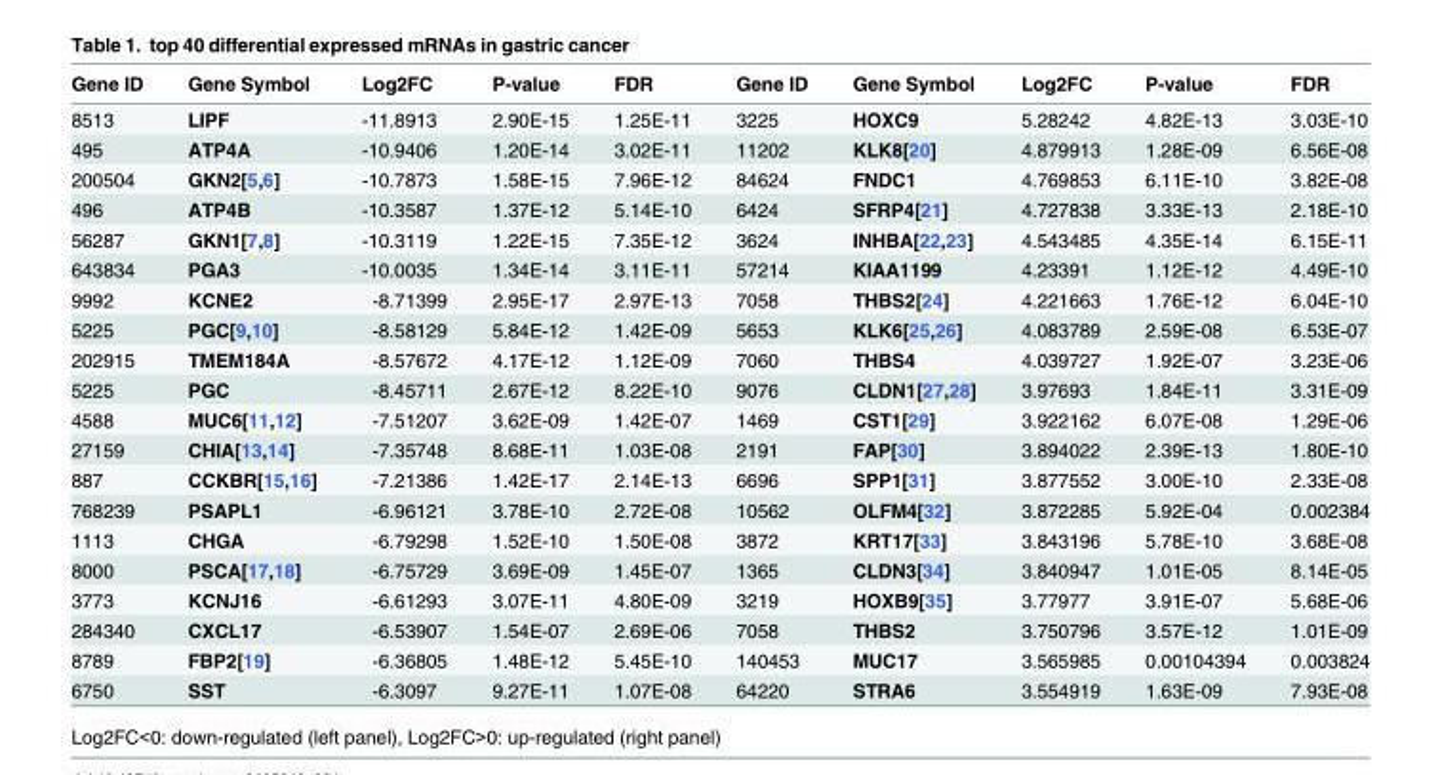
<table><thead><tr><td>Gene ID</td><td>Gene Symbol</td><td>Log2FC</td><td>P-value</td><td>FDR</td><td>Gene ID</td><td>Gene Symbol</td><td>Log2FC</td><td>P-value</td><td>FDR</td></tr></thead><tbody><tr><td>8513</td><td>LIPF</td><td>-11.8913</td><td>2.90E-15</td><td>1.25E-11</td><td>3225</td><td>HOXC9</td><td>5.28242</td><td>4.82E-13</td><td>3.03E-10</td></tr><tr><td>495</td><td>ATP4A</td><td>-10.9406</td><td>1.20E-14</td><td>3.02E-11</td><td>11202</td><td>KLK8[20]</td><td>4.879913</td><td>1.28E-09</td><td>6.56E-08</td></tr><tr><td>200504</td><td>GKN2[5,6]</td><td>-10.7873</td><td>1.58E-15</td><td>7.96E-12</td><td>84624</td><td>FNDC1</td><td>4.769853</td><td>6.11E-10</td><td>3.82E-08</td></tr><tr><td>496</td><td>ATP4B</td><td>-10.3587</td><td>1.37E-12</td><td>5.14E-10</td><td>6424</td><td>SFRP4[21]</td><td>4.727838</td><td>3.33E-13</td><td>2.18E-10</td></tr><tr><td>56287</td><td>GKN1[7,8]</td><td>-10.3119</td><td>1.22E-15</td><td>7.35E-12</td><td>3624</td><td>INHBA[22,23]</td><td>4.543485</td><td>4.35E-14</td><td>6.15E-11</td></tr><tr><td>643834</td><td>PGA3</td><td>-10.0035</td><td>1.34E-14</td><td>3.11E-11</td><td>57214</td><td>KIAA1199</td><td>4.23391</td><td>1.12E-12</td><td>4.49E-10</td></tr><tr><td>9992</td><td>KCNE2</td><td>-8.71399</td><td>2.95E-17</td><td>2.97E-13</td><td>7058</td><td>THBS2[24]</td><td>4.221663</td><td>1.76E-12</td><td>6.04E-10</td></tr><tr><td>5225</td><td>PGC[9,10]</td><td>-8.58129</td><td>5.84E-12</td><td>1.42E-09</td><td>5653</td><td>KLK6[25,26]</td><td>4.083789</td><td>2.59E-08</td><td>6.53E-07</td></tr><tr><td>202915</td><td>TMEM184A</td><td>-8.57672</td><td>4.17E-12</td><td>1.12E-09</td><td>7060</td><td>THBS4</td><td>4.039727</td><td>1.92E-07</td><td>3.23E-06</td></tr><tr><td>5225</td><td>PGC</td><td>-8.45711</td><td>2.67E-12</td><td>8.22E-10</td><td>9076</td><td>CLDN1[27,28]</td><td>3.97693</td><td>1.84E-11</td><td>3.31E-09</td></tr><tr><td>4588</td><td>MUC6[11,12]</td><td>-7.51207</td><td>3.62E-09</td><td>1.42E-07</td><td>1469</td><td>CST1[29]</td><td>3.922162</td><td>6.07E-08</td><td>1.29E-06</td></tr><tr><td>27159</td><td>CHIA[13,14]</td><td>-7.35748</td><td>8.68E-11</td><td>1.03E-08</td><td>2191</td><td>FAP[30]</td><td>3.894022</td><td>2.39E-13</td><td>1.80E-10</td></tr><tr><td>887</td><td>CCKBR[15,16]</td><td>-7.21386</td><td>1.42E-17</td><td>2.14E-13</td><td>6696</td><td>SPP1[31]</td><td>3.877552</td><td>3.00E-10</td><td>2.33E-08</td></tr><tr><td>768239</td><td>PSAPL1</td><td>-6.96121</td><td>3.78E-10</td><td>2.72E-08</td><td>10562</td><td>OLFM4[32]</td><td>3.872285</td><td>5.92E-04</td><td>0.002384</td></tr><tr><td>1113</td><td>CHGA</td><td>-6.79298</td><td>1.52E-10</td><td>1.50E-08</td><td>3872</td><td>KRT17[33]</td><td>3.843196</td><td>5.78E-10</td><td>3.68E-08</td></tr><tr><td>8000</td><td>PSCA[17,18]</td><td>-6.75729</td><td>3.69E-09</td><td>1.45E-07</td><td>1365</td><td>CLDN3[34]</td><td>3.840947</td><td>1.01E-05</td><td>8.14E-05</td></tr><tr><td>3773</td><td>KCNJ16</td><td>-6.61293</td><td>3.07E-11</td><td>4.80E-09</td><td>3219</td><td>HOXB9[35]</td><td>3.77977</td><td>3.91E-07</td><td>5.68E-06</td></tr><tr><td>284340</td><td>CXCL17</td><td>-6.53907</td><td>1.54E-07</td><td>2.69E-06</td><td>7058</td><td>THBS2</td><td>3.750796</td><td>3.57E-12</td><td>1.01E-09</td></tr><tr><td>8789</td><td>FBP2[19]</td><td>-6.36805</td><td>1.48E-12</td><td>5.45E-10</td><td>140453</td><td>MUC17</td><td>3.565985</td><td>0.00104394</td><td>0.003824</td></tr><tr><td>6750</td><td>SST</td><td>-6.3097</td><td>9.27E-11</td><td>1.07E-08</td><td>64220</td><td>STRA6</td><td>3.554919</td><td>1.63E-09</td><td>7.93E-08</td></tr></tbody></table>